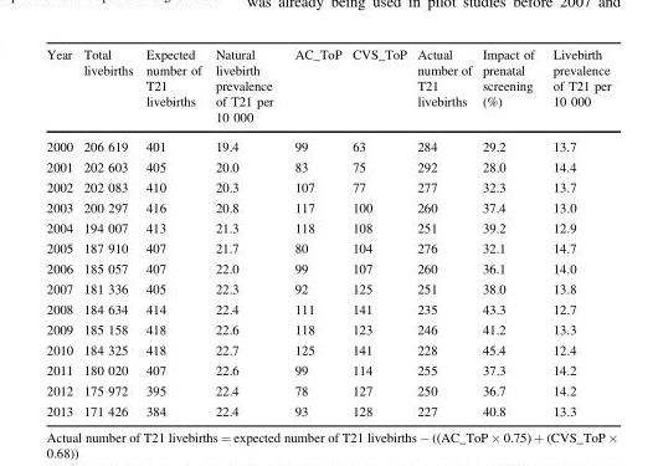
<table><thead><tr><td>Year</td><td>Total livebirths</td><td>Expected number of T21 livebirths</td><td>Natural livebirth prevalence of T21 per 10 000</td><td>AC_ToP</td><td>CVS_ToP</td><td>Actual number of T21 livebirths</td><td>Impact of prenatal screening (%)</td><td>Livebirth prevalence of T21 per 10 000</td></tr></thead><tbody><tr><td>2000</td><td>206 619</td><td>401</td><td>19.4</td><td>99</td><td>63</td><td>284</td><td>29.2</td><td>13.7</td></tr><tr><td>2001</td><td>202 603</td><td>405</td><td>20.0</td><td>83</td><td>75</td><td>292</td><td>28.0</td><td>14.4</td></tr><tr><td>2002</td><td>202 083</td><td>410</td><td>20.3</td><td>107</td><td>77</td><td>277</td><td>32.3</td><td>13.7</td></tr><tr><td>2003</td><td>200 297</td><td>416</td><td>20.8</td><td>117</td><td>100</td><td>260</td><td>37.4</td><td>13.0</td></tr><tr><td>2004</td><td>194 007</td><td>413</td><td>21.3</td><td>118</td><td>108</td><td>251</td><td>39.2</td><td>12.9</td></tr><tr><td>2005</td><td>187 910</td><td>407</td><td>21.7</td><td>80</td><td>104</td><td>276</td><td>32.1</td><td>14.7</td></tr><tr><td>2006</td><td>185 057</td><td>407</td><td>22.0</td><td>99</td><td>107</td><td>260</td><td>36.1</td><td>14.0</td></tr><tr><td>2007</td><td>181 336</td><td>405</td><td>22.3</td><td>92</td><td>125</td><td>251</td><td>38.0</td><td>13.8</td></tr><tr><td>2008</td><td>184 634</td><td>414</td><td>22.4</td><td>111</td><td>141</td><td>235</td><td>43.3</td><td>12.7</td></tr><tr><td>2009</td><td>185 158</td><td>418</td><td>22.6</td><td>118</td><td>123</td><td>246</td><td>41.2</td><td>13.3</td></tr><tr><td>2010</td><td>184 325</td><td>418</td><td>22.7</td><td>125</td><td>141</td><td>228</td><td>45.4</td><td>12.4</td></tr><tr><td>2011</td><td>180 020</td><td>407</td><td>22.6</td><td>99</td><td>114</td><td>255</td><td>37.3</td><td>14.2</td></tr><tr><td>2012</td><td>175 972</td><td>395</td><td>22.4</td><td>78</td><td>127</td><td>250</td><td>36.7</td><td>14.2</td></tr><tr><td>2013</td><td>171 426</td><td>384</td><td>22.4</td><td>93</td><td>128</td><td>227</td><td>40.8</td><td>13.3</td></tr></tbody></table>